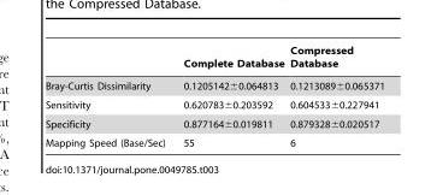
<table><thead><tr><td></td><td>Complete Database</td><td>Compressed Database</td></tr></thead><tbody><tr><td>Bray-Curtis Dissimilarity</td><td>0.1205142±0.064813</td><td>0.1213089±0.065371</td></tr><tr><td>Sensitivity</td><td>0.620783±0.203592</td><td>0.604533±0.227941</td></tr><tr><td>Specificity</td><td>0.877164±0.019811</td><td>0.879328±0.020517</td></tr><tr><td>Mapping Speed (Base/Sec)</td><td>55</td><td>6</td></tr></tbody></table>